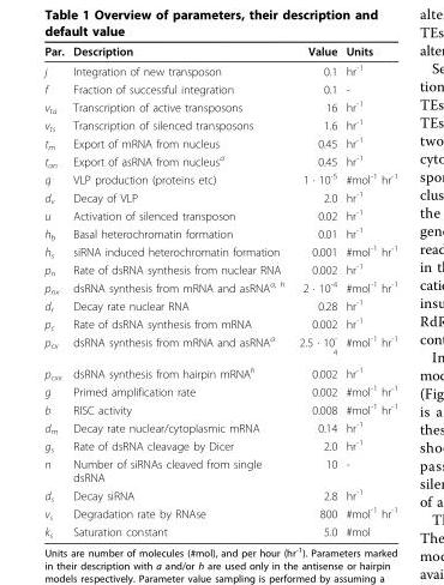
<table><thead><tr><td>Par.</td><td>Description</td><td>Value</td><td>Units</td></tr></thead><tbody><tr><td>j</td><td>Integration of new transposon</td><td>0.1</td><td>hr<sup>-1</sup></td></tr><tr><td>f</td><td>Fraction of successful integration</td><td>0.1</td><td>-</td></tr><tr><td>v<sub>ta</sub></td><td>Transcription of active transposons</td><td>16</td><td>hr<sup>-1</sup></td></tr><tr><td>v<sub>ts</sub></td><td>Transcription of silenced transposons</td><td>1.6</td><td>hr<sup>-1</sup></td></tr><tr><td>t<sub>m</sub></td><td>Export of mRNA from nucleus</td><td>0.45</td><td>hr<sup>-1</sup></td></tr><tr><td>t<sub>an</sub></td><td>Export of asRNA from nucleus<sup>a</sup></td><td>0.45</td><td>hr<sup>-1</sup></td></tr><tr><td>q</td><td>VLP production (proteins etc)</td><td>1 · 10<sup>-5</sup></td><td>#mol<sup>-1</sup> hr<sup>-1</sup></td></tr><tr><td>d<sub>v</sub></td><td>Decay of VLP</td><td>2.0</td><td>hr<sup>-1</sup></td></tr><tr><td>u</td><td>Activation of silenced transposon</td><td>0.02</td><td>hr<sup>-1</sup></td></tr><tr><td>h<sub>b</sub></td><td>Basal heterochromatin formation</td><td>0.01</td><td>hr<sup>-1</sup></td></tr><tr><td>h<sub>s</sub></td><td>siRNA induced heterochromatin formation</td><td>0.001</td><td>#mol<sup>-1</sup> hr<sup>-1</sup></td></tr><tr><td>p<sub>n</sub></td><td>Rate of dsRNA synthesis from nuclear RNA</td><td>0.002</td><td>hr<sup>-1</sup></td></tr><tr><td>p<sub>nx</sub></td><td>dsRNA synthesis from mRNA and asRNA<sup>a, h</sup></td><td>2 · 10<sup>-4</sup></td><td>#mol<sup>-1</sup> hr<sup>-1</sup></td></tr><tr><td>d<sub>r</sub></td><td>Decay rate nuclear RNA</td><td>0.28</td><td>hr<sup>-1</sup></td></tr><tr><td>p<sub>c</sub></td><td>Rate of dsRNA synthesis from mRNA</td><td>0.002</td><td>hr<sup>-1</sup></td></tr><tr><td>p<sub>cx</sub></td><td>dsRNA synthesis from mRNA and asRNA<sup>a</sup></td><td>2.5 · 10<sup>- 4</sup></td><td>#mol<sup>-1</sup> hr<sup>-1</sup></td></tr><tr><td>p<sub>cxx</sub></td><td>dsRNA synthesis from hairpin mRNA<sup>h</sup></td><td>0.002</td><td>hr<sup>-1</sup></td></tr><tr><td>g</td><td>Primed amplification rate</td><td>0.002</td><td>#mol<sup>-1</sup> hr<sup>-1</sup></td></tr><tr><td>b</td><td>RISC activity</td><td>0.008</td><td>#mol<sup>-1</sup> hr<sup>-1</sup></td></tr><tr><td>d<sub>m</sub></td><td>Decay rate nuclear/cytoplasmic mRNA</td><td>0.14</td><td>hr<sup>-1</sup></td></tr><tr><td>g<sub>s</sub></td><td>Rate of dsRNA cleavage by Dicer</td><td>2.0</td><td>hr<sup>-1</sup></td></tr><tr><td>n</td><td>Number of siRNAs cleaved from single dsRNA</td><td>10</td><td>-</td></tr><tr><td>d<sub>s</sub></td><td>Decay siRNA</td><td>2.8</td><td>hr<sup>-1</sup></td></tr><tr><td>v<sub>s</sub></td><td>Degradation rate by RNAse</td><td>800</td><td>#mol<sup>-1</sup> hr<sup>-1</sup></td></tr><tr><td>k<sub>s</sub></td><td>Saturation constant</td><td>5.0</td><td>#mol</td></tr></tbody></table>